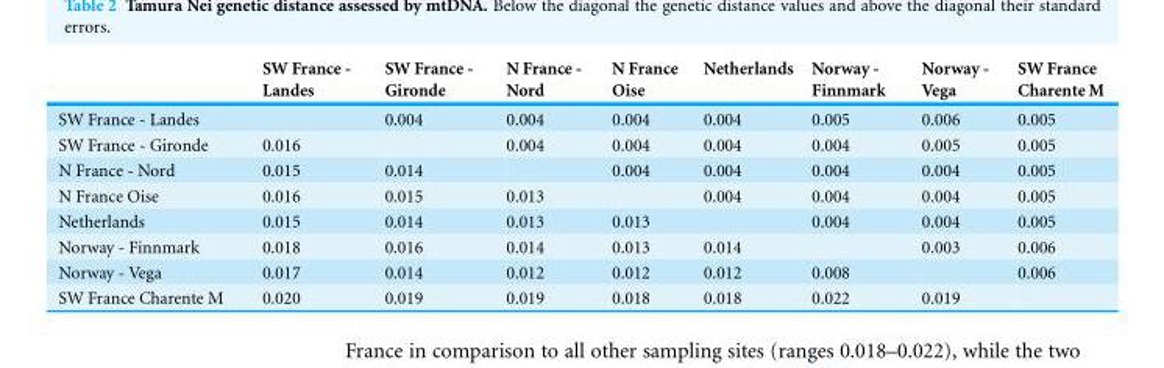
<table><thead><tr><td></td><td>SW France - Landes</td><td>SW France - Gironde</td><td>N France - Nord</td><td>N France Oise</td><td>Netherlands</td><td>Norway - Finnmark</td><td>Norway - Vega</td><td>SW France Charente M</td></tr></thead><tbody><tr><td>SW France - Landes</td><td></td><td>0.004</td><td>0.004</td><td>0.004</td><td>0.004</td><td>0.005</td><td>0.006</td><td>0.005</td></tr><tr><td>SW France - Gironde</td><td>0.016</td><td></td><td>0.004</td><td>0.004</td><td>0.004</td><td>0.004</td><td>0.005</td><td>0.005</td></tr><tr><td>N France - Nord</td><td>0.015</td><td>0.014</td><td></td><td>0.004</td><td>0.004</td><td>0.004</td><td>0.004</td><td>0.005</td></tr><tr><td>N France Oise</td><td>0.016</td><td>0.015</td><td>0.013</td><td></td><td>0.004</td><td>0.004</td><td>0.004</td><td>0.005</td></tr><tr><td>Netherlands</td><td>0.015</td><td>0.014</td><td>0.013</td><td>0.013</td><td></td><td>0.004</td><td>0.004</td><td>0.005</td></tr><tr><td>Norway - Finnmark</td><td>0.018</td><td>0.016</td><td>0.014</td><td>0.013</td><td>0.014</td><td></td><td>0.003</td><td>0.006</td></tr><tr><td>Norway - Vega</td><td>0.017</td><td>0.014</td><td>0.012</td><td>0.012</td><td>0.012</td><td>0.008</td><td></td><td>0.006</td></tr><tr><td>SW France Charente M</td><td>0.020</td><td>0.019</td><td>0.019</td><td>0.018</td><td>0.018</td><td>0.022</td><td>0.019</td><td></td></tr></tbody></table>